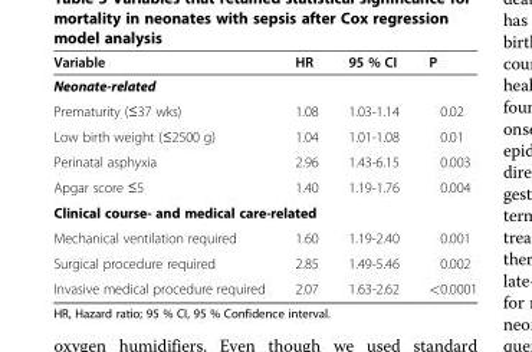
<table><thead><tr><td>Variable</td><td>HR</td><td>95 % CI</td><td>P</td></tr></thead><tbody><tr><td colspan="4">Neonate-related</td></tr><tr><td>Prematurity (≤37 wks)</td><td>1.08</td><td>1.03-1.14</td><td>0.02</td></tr><tr><td>Low birth weight (≤2500 g)</td><td>1.04</td><td>1.01-1.08</td><td>0.01</td></tr><tr><td>Perinatal asphyxia</td><td>2.96</td><td>1.43-6.15</td><td>0.003</td></tr><tr><td>Apgar score ≤5</td><td>1.40</td><td>1.19-1.76</td><td>0.004</td></tr><tr><td colspan="4">Clinical course- and medical care-related</td></tr><tr><td>Mechanical ventilation required</td><td>1.60</td><td>1.19-2.40</td><td>0.001</td></tr><tr><td>Surgical procedure required</td><td>2.85</td><td>1.49-5.46</td><td>0.002</td></tr><tr><td>Invasive medical procedure required</td><td>2.07</td><td>1.63-2.62</td><td>&lt;0.0001</td></tr></tbody></table>